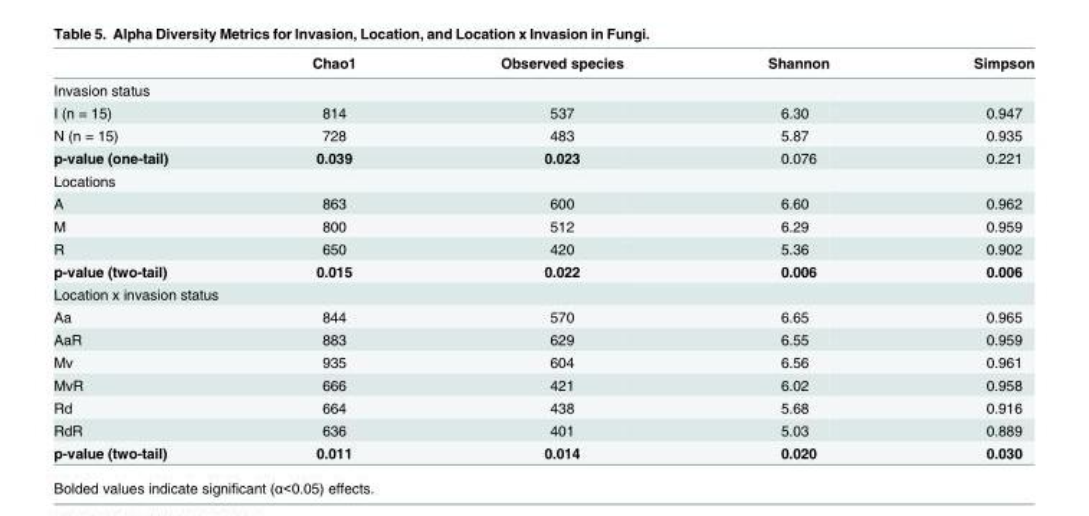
<table><thead><tr><td></td><td>Chao1</td><td>Observed species</td><td>Shannon</td><td>Simpson</td></tr></thead><tbody><tr><td colspan="5">Invasion status</td></tr><tr><td>I (n = 15)</td><td>814</td><td>537</td><td>6.30</td><td>0.947</td></tr><tr><td>N (n = 15)</td><td>728</td><td>483</td><td>5.87</td><td>0.935</td></tr><tr><td>p-value (one-tail)</td><td>0.039</td><td>0.023</td><td>0.076</td><td>0.221</td></tr><tr><td colspan="5">Locations</td></tr><tr><td>A</td><td>863</td><td>600</td><td>6.60</td><td>0.962</td></tr><tr><td>M</td><td>800</td><td>512</td><td>6.29</td><td>0.959</td></tr><tr><td>R</td><td>650</td><td>420</td><td>5.36</td><td>0.902</td></tr><tr><td>p-value (two-tail)</td><td>0.015</td><td>0.022</td><td>0.006</td><td>0.006</td></tr><tr><td colspan="5">Location x invasion status</td></tr><tr><td>Aa</td><td>844</td><td>570</td><td>6.65</td><td>0.965</td></tr><tr><td>AaR</td><td>883</td><td>629</td><td>6.55</td><td>0.959</td></tr><tr><td>Mv</td><td>935</td><td>604</td><td>6.56</td><td>0.961</td></tr><tr><td>MvR</td><td>666</td><td>421</td><td>6.02</td><td>0.958</td></tr><tr><td>Rd</td><td>664</td><td>438</td><td>5.68</td><td>0.916</td></tr><tr><td>RdR</td><td>636</td><td>401</td><td>5.03</td><td>0.889</td></tr><tr><td>p-value (two-tail)</td><td>0.011</td><td>0.014</td><td>0.020</td><td>0.030</td></tr></tbody></table>